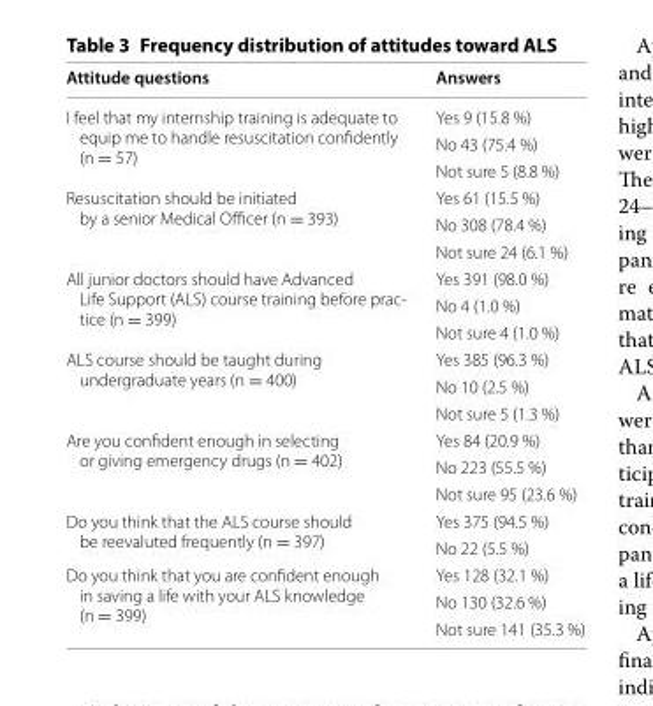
<table><thead><tr><td>Attitude questions</td><td>Answers</td></tr></thead><tbody><tr><td rowspan="3">I feel that my internship training is adequate to equip me to handle resuscitation confidently (n = 57)</td><td>Yes 9 (15.8 %)</td></tr><tr><td>No 43 (75.4 %)</td></tr><tr><td>Not sure 5 (8.8 %)</td></tr><tr><td rowspan="3">Resuscitation should be initiated by a senior Medical Officer (n = 393)</td><td>Yes 61 (15.5 %)</td></tr><tr><td>No 308 (78.4 %)</td></tr><tr><td>Not sure 24 (6.1 %)</td></tr><tr><td rowspan="3">All junior doctors should have Advanced Life Support (ALS) course training before prac- tice (n = 399)</td><td>Yes 391 (98.0 %)</td></tr><tr><td>No 4 (1.0 %)</td></tr><tr><td>Not sure 4 (1.0 %)</td></tr><tr><td rowspan="3">ALS course should be taught during undergraduate years (n = 400)</td><td>Yes 385 (96.3 %)</td></tr><tr><td>No 10 (2.5 %)</td></tr><tr><td>Not sure 5 (1.3 %)</td></tr><tr><td rowspan="3">Are you confident enough in selecting or giving emergency drugs (n = 402)</td><td>Yes 84 (20.9 %)</td></tr><tr><td>No 223 (55.5 %)</td></tr><tr><td>Not sure 95 (23.6 %)</td></tr><tr><td rowspan="2">Do you think that the ALS course should be reevaluted frequently (n = 397)</td><td>Yes 375 (94.5 %)</td></tr><tr><td>No 22 (5.5 %)</td></tr><tr><td rowspan="3">Do you think that you are confident enough in saving a life with your ALS knowledge (n = 399)</td><td>Yes 128 (32.1 %)</td></tr><tr><td>No 130 (32.6 %)</td></tr><tr><td>Not sure 141 (35.3 %)</td></tr></tbody></table>